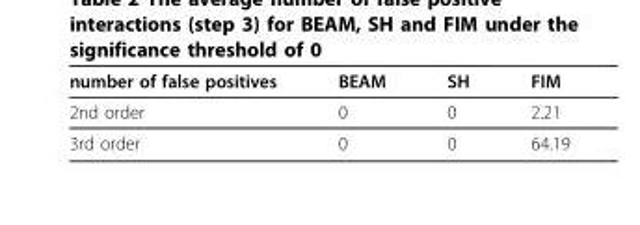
<table><thead><tr><td>number of false positives</td><td>BEAM</td><td>SH</td><td>FIM</td></tr></thead><tbody><tr><td>2nd order</td><td>0</td><td>0</td><td>2.21</td></tr><tr><td>3rd order</td><td>0</td><td>0</td><td>64.19</td></tr></tbody></table>